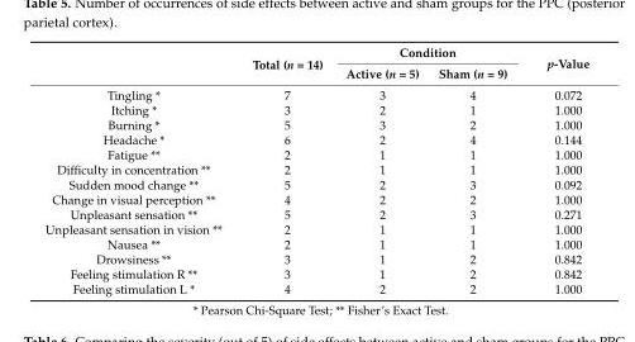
<table><thead><tr><td rowspan="2"></td><td rowspan="2">Total (n = 14)</td><td colspan="2">Condition</td><td rowspan="2">p-Value</td></tr><tr><td>Active (n = 5)</td><td>Sham (n = 9)</td></tr></thead><tbody><tr><td>Tingling *</td><td>7</td><td>3</td><td>4</td><td>0.072</td></tr><tr><td>Itching *</td><td>3</td><td>2</td><td>1</td><td>1.000</td></tr><tr><td>Burning *</td><td>5</td><td>3</td><td>2</td><td>1.000</td></tr><tr><td>Headache *</td><td>6</td><td>2</td><td>4</td><td>0.144</td></tr><tr><td>Fatigue **</td><td>2</td><td>1</td><td>1</td><td>1.000</td></tr><tr><td>Difficulty in concentration **</td><td>2</td><td>1</td><td>1</td><td>1.000</td></tr><tr><td>Sudden mood change **</td><td>5</td><td>2</td><td>3</td><td>0.092</td></tr><tr><td>Change in visual perception **</td><td>4</td><td>2</td><td>2</td><td>1.000</td></tr><tr><td>Unpleasant sensation **</td><td>5</td><td>2</td><td>3</td><td>0.271</td></tr><tr><td>Unpleasant sensation in vision **</td><td>2</td><td>1</td><td>1</td><td>1.000</td></tr><tr><td>Nausea **</td><td>2</td><td>1</td><td>1</td><td>1.000</td></tr><tr><td>Drowsiness **</td><td>3</td><td>1</td><td>2</td><td>0.842</td></tr><tr><td>Feeling stimulation R **</td><td>3</td><td>1</td><td>2</td><td>0.842</td></tr><tr><td>Feeling stimulation L *</td><td>4</td><td>2</td><td>2</td><td>1.000</td></tr></tbody></table>